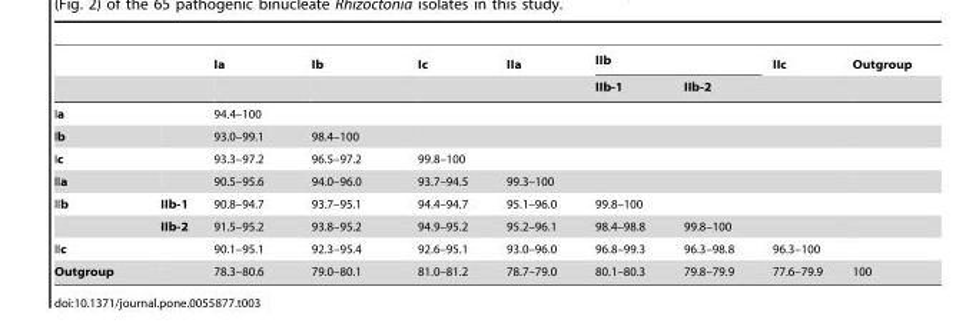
<table><thead><tr><td rowspan="2"></td><td rowspan="2"></td><td rowspan="2">Ia</td><td rowspan="2">Ib</td><td rowspan="2">Ic</td><td rowspan="2">IIa</td><td colspan="2">IIb</td><td rowspan="2">IIc</td><td rowspan="2">Outgroup</td></tr><tr><td>IIb-1</td><td>IIb-2</td></tr></thead><tbody><tr><td>Ia</td><td></td><td>94.4–100</td><td></td><td></td><td></td><td></td><td></td><td></td><td></td></tr><tr><td>Ib</td><td></td><td>93.0–99.1</td><td>98.4–100</td><td></td><td></td><td></td><td></td><td></td><td></td></tr><tr><td>Ic</td><td></td><td>93.3–97.2</td><td>96.5–97.2</td><td>99.8–100</td><td></td><td></td><td></td><td></td><td></td></tr><tr><td>IIa</td><td></td><td>90.5–95.6</td><td>94.0–96.0</td><td>93.7–94.5</td><td>99.3–100</td><td></td><td></td><td></td><td></td></tr><tr><td rowspan="2">IIb</td><td>IIb-1</td><td>90.8–94.7</td><td>93.7–95.1</td><td>94.4–94.7</td><td>95.1–96.0</td><td>99.8–100</td><td></td><td></td><td></td></tr><tr><td>IIb-2</td><td>91.5–95.2</td><td>93.8–95.2</td><td>94.9–95.2</td><td>95.2–96.1</td><td>98.4–98.8</td><td>99.8–100</td><td></td><td></td></tr><tr><td>IIc</td><td></td><td>90.1–95.1</td><td>92.3–95.4</td><td>92.6–95.1</td><td>93.0–96.0</td><td>96.8–99.3</td><td>96.3–98.8</td><td>96.3–100</td><td></td></tr><tr><td>Outgroup</td><td></td><td>78.3–80.6</td><td>79.0–80.1</td><td>81.0–81.2</td><td>78.7–79.0</td><td>80.1–80.3</td><td>79.8–79.9</td><td>77.6–79.9</td><td>100</td></tr></tbody></table>